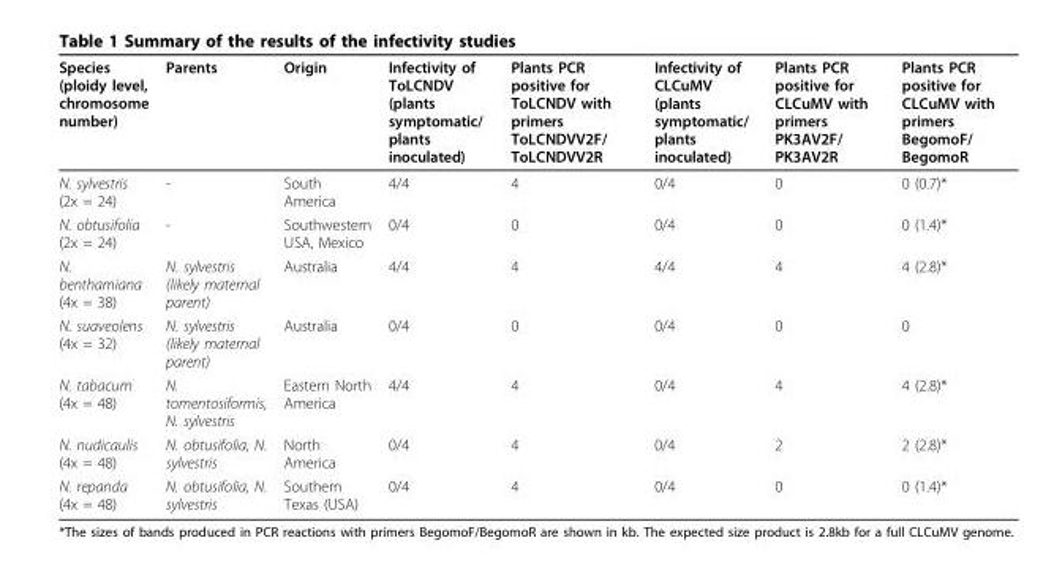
<table><thead><tr><td>Species (ploidy level, chromosome number)</td><td>Parents</td><td>Origin</td><td>Infectivity of ToLCNDV (plants symptomatic/ plants inoculated)</td><td>Plants PCR positive for ToLCNDV with primers ToLCNDVV2F/ ToLCNDVV2R</td><td>Infectivity of CLCuMV (plants symptomatic/ plants inoculated)</td><td>Plants PCR positive for CLCuMV with primers PK3AV2F/ PK3AV2R</td><td>Plants PCR positive for CLCuMV with primers BegomoF/ BegomoR</td></tr></thead><tbody><tr><td>N. sylvestris (2x = 24)</td><td>-</td><td>South America</td><td>4/4</td><td>4</td><td>0/4</td><td>0</td><td>0 (0.7)*</td></tr><tr><td>N. obtusifolia (2x = 24)</td><td>-</td><td>Southwestern USA, Mexico</td><td>0/4</td><td>0</td><td>0/4</td><td>0</td><td>0 (1.4)*</td></tr><tr><td>N. benthamiana (4x = 38)</td><td>N. sylvestris (likely maternal parent)</td><td>Australia</td><td>4/4</td><td>4</td><td>4/4</td><td>4</td><td>4 (2.8)*</td></tr><tr><td>N. suaveolens (4x = 32)</td><td>N. sylvestris (likely maternal parent)</td><td>Australia</td><td>0/4</td><td>0</td><td>0/4</td><td>0</td><td>0</td></tr><tr><td>N. tabacum (4x = 48)</td><td>N. tomentosiformis, N. sylvestris</td><td>Eastern North America</td><td>4/4</td><td>4</td><td>0/4</td><td>4</td><td>4 (2.8)*</td></tr><tr><td>N. nudicaulis (4x = 48)</td><td>N. obtusifolia, N. sylvestris</td><td>North America</td><td>0/4</td><td>4</td><td>0/4</td><td>2</td><td>2 (2.8)*</td></tr><tr><td>N. repanda (4x = 48)</td><td>N. obtusifolia, N. sylvestris</td><td>Southern Texas (USA)</td><td>0/4</td><td>4</td><td>0/4</td><td>0</td><td>0 (1.4)*</td></tr></tbody></table>